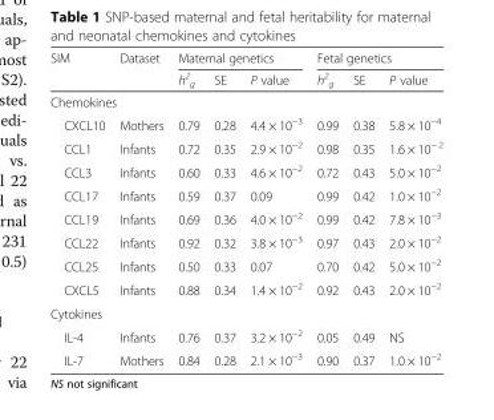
<table><thead><tr><td rowspan="2">SIM</td><td rowspan="2">Dataset</td><td colspan="3">Maternal genetics</td><td colspan="3">Fetal genetics</td></tr><tr><td>h<sup>2</sup> <sub>g</sub></td><td>SE</td><td>P value</td><td>h<sup>2</sup> <sub>g</sub></td><td>SE</td><td>P value</td></tr></thead><tbody><tr><td colspan="8">Chemokines</td></tr><tr><td>CXCL10</td><td>Mothers</td><td>0.79</td><td>0.28</td><td>4.4 × 10<sup>−3</sup></td><td>0.99</td><td>0.38</td><td>5.8 × 10<sup>−4</sup></td></tr><tr><td>CCL1</td><td>Infants</td><td>0.72</td><td>0.35</td><td>2.9 × 10<sup>−2</sup></td><td>0.98</td><td>0.35</td><td>1.6 × 10<sup>− 2</sup></td></tr><tr><td>CCL3</td><td>Infants</td><td>0.60</td><td>0.33</td><td>4.6 × 10<sup>−2</sup></td><td>0.72</td><td>0.43</td><td>5.0 × 10<sup>−2</sup></td></tr><tr><td>CCL17</td><td>Infants</td><td>0.59</td><td>0.37</td><td>0.09</td><td>0.99</td><td>0.42</td><td>1.0 × 10<sup>−2</sup></td></tr><tr><td>CCL19</td><td>Infants</td><td>0.69</td><td>0.36</td><td>4.0 × 10<sup>−2</sup></td><td>0.99</td><td>0.42</td><td>7.8 × 10<sup>−3</sup></td></tr><tr><td>CCL22</td><td>Infants</td><td>0.92</td><td>0.32</td><td>3.8 × 10<sup>−3</sup></td><td>0.97</td><td>0.43</td><td>2.0 × 10<sup>−2</sup></td></tr><tr><td>CCL25</td><td>Infants</td><td>0.50</td><td>0.33</td><td>0.07</td><td>0.70</td><td>0.42</td><td>5.0 × 10<sup>−2</sup></td></tr><tr><td>CXCL5</td><td>Infants</td><td>0.88</td><td>0.34</td><td>1.4 × 10<sup>−2</sup></td><td>0.92</td><td>0.43</td><td>2.0 × 10<sup>−2</sup></td></tr><tr><td colspan="8">Cytokines</td></tr><tr><td>IL-4</td><td>Infants</td><td>0.76</td><td>0.37</td><td>3.2 × 10<sup>−2</sup></td><td>0.05</td><td>0.49</td><td>NS</td></tr><tr><td>IL-7</td><td>Mothers</td><td>0.84</td><td>0.28</td><td>2.1 × 10<sup>−3</sup></td><td>0.90</td><td>0.37</td><td>1.0 × 10<sup>−2</sup></td></tr></tbody></table>